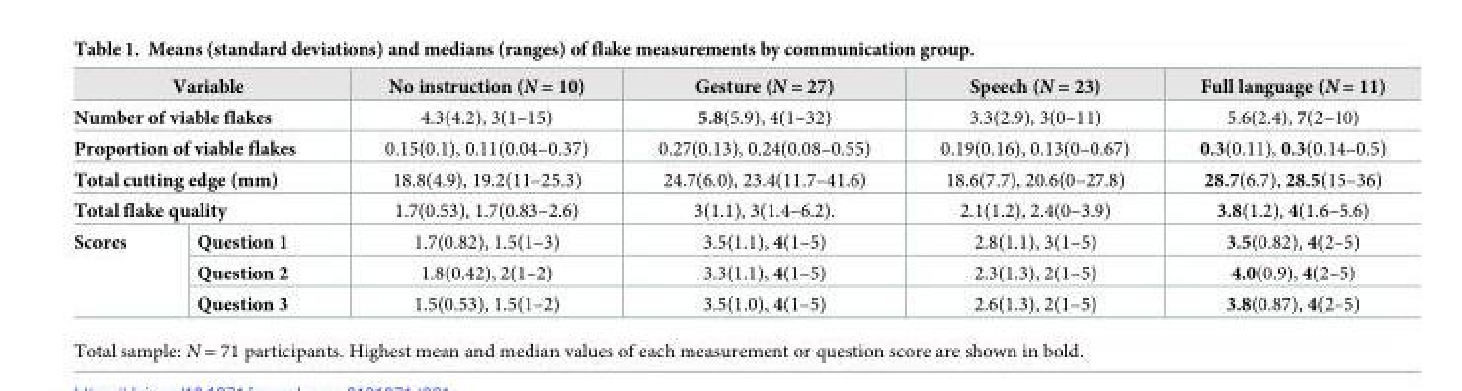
<table><thead><tr><td colspan="2">Variable</td><td>No instruction (N = 10)</td><td>Gesture (N = 27)</td><td>Speech (N = 23)</td><td>Full language (N = 11)</td></tr></thead><tbody><tr><td colspan="2">Number of viable flakes</td><td>4.3(4.2), 3(1–15)</td><td>5.8(5.9), 4(1–32)</td><td>3.3(2.9), 3(0–11)</td><td>5.6(2.4), 7(2–10)</td></tr><tr><td colspan="2">Proportion of viable flakes</td><td>0.15(0.1), 0.11(0.04–0.37)</td><td>0.27(0.13), 0.24(0.08–0.55)</td><td>0.19(0.16), 0.13(0–0.67)</td><td>0.3(0.11), 0.3(0.14–0.5)</td></tr><tr><td colspan="2">Total cutting edge (mm)</td><td>18.8(4.9), 19.2(11–25.3)</td><td>24.7(6.0), 23.4(11.7–41.6)</td><td>18.6(7.7), 20.6(0–27.8)</td><td>28.7(6.7), 28.5(15–36)</td></tr><tr><td colspan="2">Total flake quality</td><td>1.7(0.53), 1.7(0.83–2.6)</td><td>3(1.1), 3(1.4–6.2).</td><td>2.1(1.2), 2.4(0–3.9)</td><td>3.8(1.2), 4(1.6–5.6)</td></tr><tr><td rowspan="3">Scores</td><td>Question 1</td><td>1.7(0.82), 1.5(1–3)</td><td>3.5(1.1), 4(1–5)</td><td>2.8(1.1), 3(1–5)</td><td>3.5(0.82), 4(2–5)</td></tr><tr><td>Question 2</td><td>1.8(0.42), 2(1–2)</td><td>3.3(1.1), 4(1–5)</td><td>2.3(1.3), 2(1–5)</td><td>4.0(0.9), 4(2–5)</td></tr><tr><td>Question 3</td><td>1.5(0.53), 1.5(1–2)</td><td>3.5(1.0), 4(1–5)</td><td>2.6(1.3), 2(1–5)</td><td>3.8(0.87), 4(2–5)</td></tr></tbody></table>